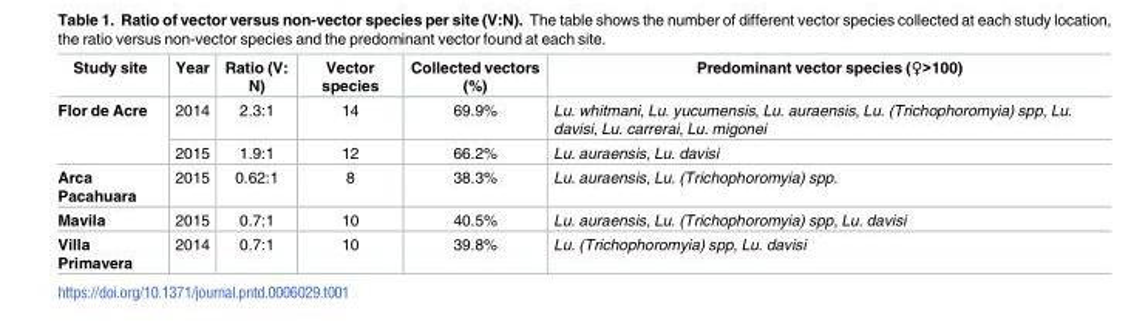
<table><thead><tr><td>Study site</td><td>Year</td><td>Ratio (V: N)</td><td>Vector species</td><td>Collected vectors (%)</td><td>Predominant vector species (♀&gt;100)</td></tr></thead><tbody><tr><td rowspan="2">Flor de Acre</td><td>2014</td><td>2.3:1</td><td>14</td><td>69.9%</td><td>Lu. whitmani, Lu. yucumensis, Lu. auraensis, Lu. (Trichophoromyia) spp, Lu. davisi, Lu. carrerai, Lu. migonei</td></tr><tr><td>2015</td><td>1.9:1</td><td>12</td><td>66.2%</td><td>Lu. auraensis, Lu. davisi</td></tr><tr><td>Arca Pacahuara</td><td>2015</td><td>0.62:1</td><td>8</td><td>38.3%</td><td>Lu. auraensis, Lu. (Trichophoromyia) spp.</td></tr><tr><td>Mavila</td><td>2015</td><td>0.7:1</td><td>10</td><td>40.5%</td><td>Lu. auraensis, Lu. (Trichophoromyia) spp, Lu. davisi</td></tr><tr><td>Villa Primavera</td><td>2014</td><td>0.7:1</td><td>10</td><td>39.8%</td><td>Lu. (Trichophoromyia) spp, Lu. davisi</td></tr></tbody></table>